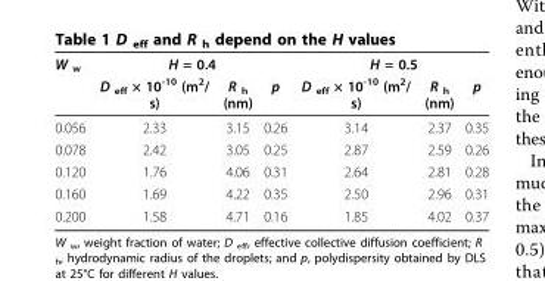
<table><thead><tr><td rowspan="2">W <sub>w</sub></td><td colspan="3">H = 0.4</td><td colspan="3">H = 0.5</td></tr><tr><td>D <sub>eff</sub> × 10<sup>-10</sup> (m<sup>2</sup>/ s)</td><td>R <sub>h</sub> (nm)</td><td>p</td><td>D <sub>eff</sub> × 10<sup>-10</sup> (m<sup>2</sup>/ s)</td><td>R <sub>h</sub> (nm)</td><td>p</td></tr></thead><tbody><tr><td>0.056</td><td>2.33</td><td>3.15</td><td>0.26</td><td>3.14</td><td>2.37</td><td>0.35</td></tr><tr><td>0.078</td><td>2.42</td><td>3.05</td><td>0.25</td><td>2.87</td><td>2.59</td><td>0.26</td></tr><tr><td>0.120</td><td>1.76</td><td>4.06</td><td>0.31</td><td>2.64</td><td>2.81</td><td>0.28</td></tr><tr><td>0.160</td><td>1.69</td><td>4.22</td><td>0.35</td><td>2.50</td><td>2.96</td><td>0.31</td></tr><tr><td>0.200</td><td>1.58</td><td>4.71</td><td>0.16</td><td>1.85</td><td>4.02</td><td>0.37</td></tr></tbody></table>